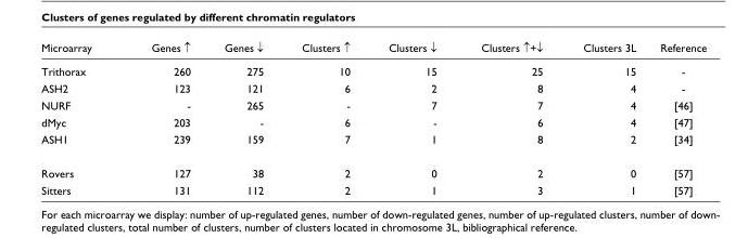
<table><thead><tr><td>Microarray</td><td>Genes ↑</td><td>Genes ↓</td><td>Clusters ↑</td><td>Clusters ↓</td><td>Clusters ↑+↓</td><td>Clusters 3L</td><td>Reference</td></tr></thead><tbody><tr><td>Trithorax</td><td>260</td><td>275</td><td>10</td><td>15</td><td>25</td><td>15</td><td>-</td></tr><tr><td>ASH2</td><td>123</td><td>121</td><td>6</td><td>2</td><td>8</td><td>4</td><td>-</td></tr><tr><td>NURF</td><td>-</td><td>265</td><td>-</td><td>7</td><td>7</td><td>4</td><td>[46]</td></tr><tr><td>dMyc</td><td>203</td><td>-</td><td>6</td><td>-</td><td>6</td><td>4</td><td>[47]</td></tr><tr><td>ASH1</td><td>239</td><td>159</td><td>7</td><td>1</td><td>8</td><td>2</td><td>[34]</td></tr><tr><td>Rovers</td><td>127</td><td>38</td><td>2</td><td>0</td><td>2</td><td>0</td><td>[57]</td></tr><tr><td>Sitters</td><td>131</td><td>112</td><td>2</td><td>1</td><td>3</td><td>1</td><td>[57]</td></tr></tbody></table>